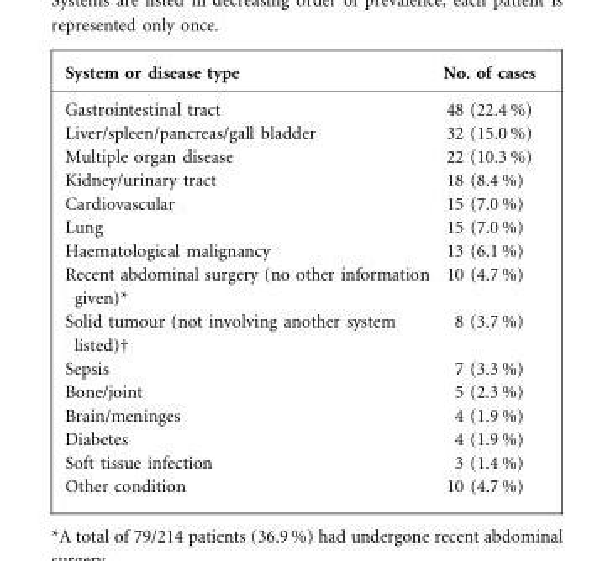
<table><thead><tr><td>System or disease type</td><td>No. of cases</td></tr></thead><tbody><tr><td>Gastrointestinal tract</td><td>48 (22.4 %)</td></tr><tr><td>Liver/spleen/pancreas/gall bladder</td><td>32 (15.0 %)</td></tr><tr><td>Multiple organ disease</td><td>22 (10.3 %)</td></tr><tr><td>Kidney/urinary tract</td><td>18 (8.4 %)</td></tr><tr><td>Cardiovascular</td><td>15 (7.0 %)</td></tr><tr><td>Lung</td><td>15 (7.0 %)</td></tr><tr><td>Haematological malignancy</td><td>13 (6.1 %)</td></tr><tr><td>Recent abdominal surgery (no other information given)*</td><td>10 (4.7 %)</td></tr><tr><td>Solid tumour (not involving another system listed)†</td><td>8 (3.7 %)</td></tr><tr><td>Sepsis</td><td>7 (3.3 %)</td></tr><tr><td>Bone/joint</td><td>5 (2.3 %)</td></tr><tr><td>Brain/meninges</td><td>4 (1.9 %)</td></tr><tr><td>Diabetes</td><td>4 (1.9 %)</td></tr><tr><td>Soft tissue infection</td><td>3 (1.4 %)</td></tr><tr><td>Other condition</td><td>10 (4.7 %)</td></tr></tbody></table>